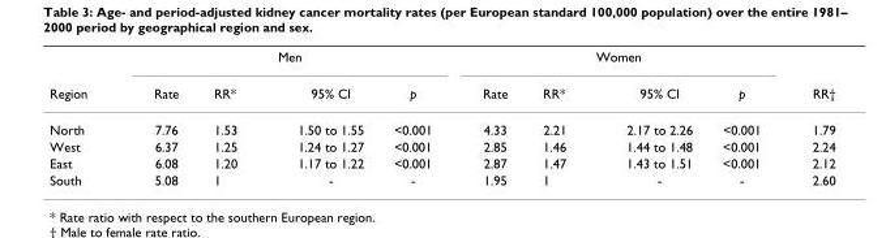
<table><thead><tr><td rowspan="2">Region</td><td colspan="4">Men</td><td colspan="4">Women</td><td rowspan="2">RR†</td></tr><tr><td>Rate</td><td>RR*</td><td>95% CI</td><td>p</td><td>Rate</td><td>RR*</td><td>95% CI</td><td>p</td></tr></thead><tbody><tr><td>North</td><td>7.76</td><td>1.53</td><td>1.50 to 1.55</td><td>&lt;0.001</td><td>4.33</td><td>2.21</td><td>2.17 to 2.26</td><td>&lt;0.001</td><td>1.79</td></tr><tr><td>West</td><td>6.37</td><td>1.25</td><td>1.24 to 1.27</td><td>&lt;0.001</td><td>2.85</td><td>1.46</td><td>1.44 to 1.48</td><td>&lt;0.001</td><td>2.24</td></tr><tr><td>East</td><td>6.08</td><td>1.20</td><td>1.17 to 1.22</td><td>&lt;0.001</td><td>2.87</td><td>1.47</td><td>1.43 to 1.51</td><td>&lt;0.001</td><td>2.12</td></tr><tr><td>South</td><td>5.08</td><td>1</td><td>-</td><td>-</td><td>1.95</td><td>1</td><td>-</td><td>-</td><td>2.60</td></tr></tbody></table>